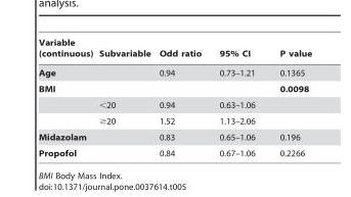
<table><thead><tr><td>Variable (continuous)</td><td>Subvariable</td><td>Odd ratio</td><td>95% CI</td><td>P value</td></tr></thead><tbody><tr><td>Age</td><td></td><td>0.94</td><td>0.73–1.21</td><td>0.1365</td></tr><tr><td rowspan="3">BMI</td><td></td><td></td><td></td><td>0.0098</td></tr><tr><td>&lt;20</td><td>0.94</td><td>0.63–1.06</td><td></td></tr><tr><td>≥20</td><td>1.52</td><td>1.13–2.06</td><td></td></tr><tr><td>Midazolam</td><td></td><td>0.83</td><td>0.65–1.06</td><td>0.196</td></tr><tr><td>Propofol</td><td></td><td>0.84</td><td>0.67–1.06</td><td>0.2266</td></tr></tbody></table>